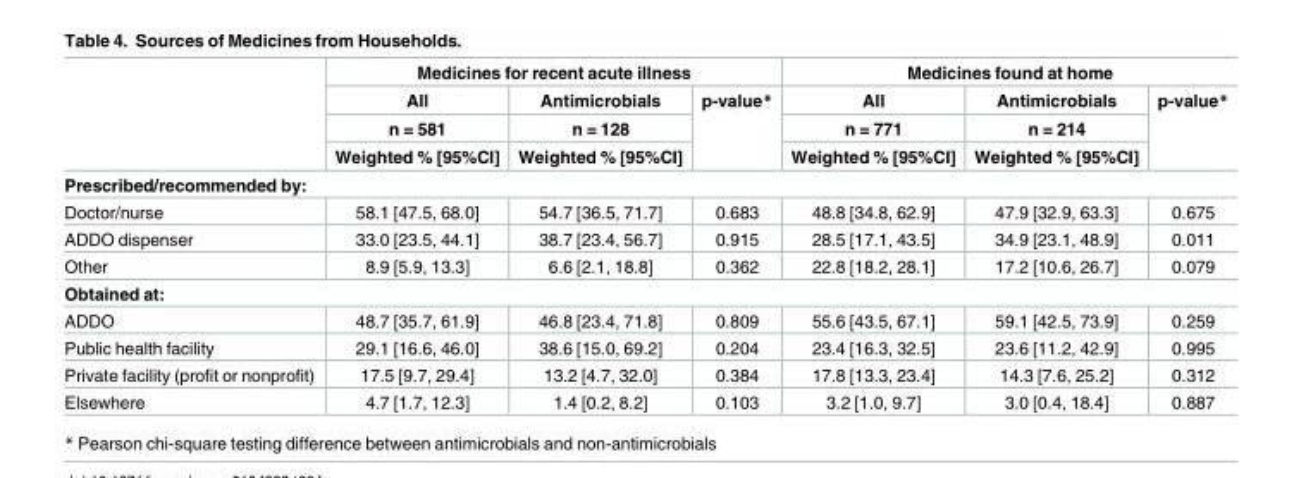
<table><thead><tr><td rowspan="4"></td><td colspan="3">Medicines for recent acute illness</td><td colspan="3">Medicines found at home</td></tr><tr><td rowspan="3">All n = 581 Weighted % [95%CI]</td><td rowspan="3">Antimicrobials n = 128 Weighted % [95%CI]</td><td rowspan="3">p-value*</td><td rowspan="3">All n = 771 Weighted % [95%CI]</td><td rowspan="3">Antimicrobials n = 214 Weighted % [95%CI]</td><td rowspan="3">p-value*</td></tr><tr></tr><tr></tr></thead><tbody><tr><td colspan="7">Prescribed/recommended by:</td></tr><tr><td>Doctor/nurse</td><td>58.1 [47.5, 68.0]</td><td>54.7 [36.5, 71.7]</td><td>0.683</td><td>48.8 [34.8, 62.9]</td><td>47.9 [32.9, 63.3]</td><td>0.675</td></tr><tr><td>ADDO dispenser</td><td>33.0 [23.5, 44.1]</td><td>38.7 [23.4, 56.7]</td><td>0.915</td><td>28.5 [17.1, 43.5]</td><td>34.9 [23.1, 48.9]</td><td>0.011</td></tr><tr><td>Other</td><td>8.9 [5.9, 13.3]</td><td>6.6 [2.1, 18.8]</td><td>0.362</td><td>22.8 [18.2, 28.1]</td><td>17.2 [10.6, 26.7]</td><td>0.079</td></tr><tr><td colspan="7">Obtained at:</td></tr><tr><td>ADDO</td><td>48.7 [35.7, 61.9]</td><td>46.8 [23.4, 71.8]</td><td>0.809</td><td>55.6 [43.5, 67.1]</td><td>59.1 [42.5, 73.9]</td><td>0.259</td></tr><tr><td>Public health facility</td><td>29.1 [16.6, 46.0]</td><td>38.6 [15.0, 69.2]</td><td>0.204</td><td>23.4 [16.3, 32.5]</td><td>23.6 [11.2, 42.9]</td><td>0.995</td></tr><tr><td>Private facility (profit or nonprofit)</td><td>17.5 [9.7, 29.4]</td><td>13.2 [4.7, 32.0]</td><td>0.384</td><td>17.8 [13.3, 23.4]</td><td>14.3 [7.6, 25.2]</td><td>0.312</td></tr><tr><td>Elsewhere</td><td>4.7 [1.7, 12.3]</td><td>1.4 [0.2, 8.2]</td><td>0.103</td><td>3.2 [1.0, 9.7]</td><td>3.0 [0.4, 18.4]</td><td>0.887</td></tr></tbody></table>